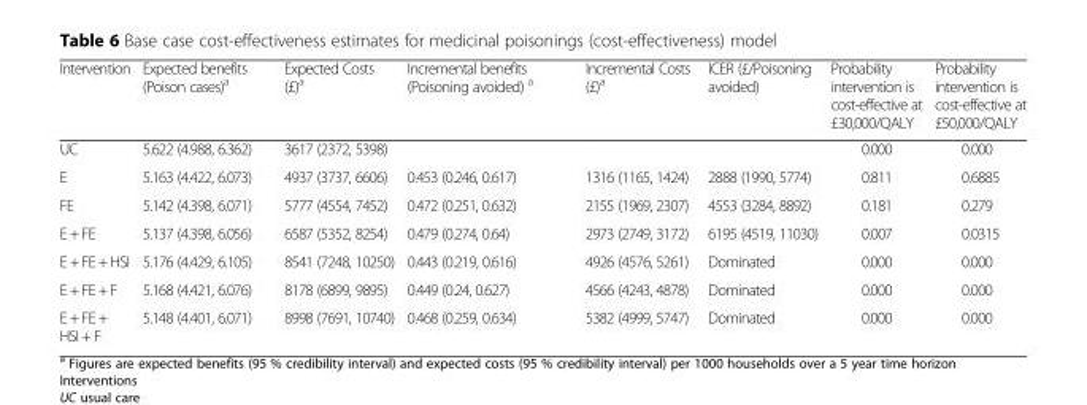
<table><thead><tr><td>Intervention</td><td>Expected benefits (Poison cases)<sup>a</sup></td><td>Expected Costs (£)<sup>a</sup></td><td>Incremental benefits (Poisoning avoided) <sup>a</sup></td><td>Incremental Costs (£)<sup>a</sup></td><td>ICER (£/Poisoning avoided)</td><td>Probability intervention is cost-effective at £30,000/QALY</td><td>Probability intervention is cost-effective at £50,000/QALY</td></tr></thead><tbody><tr><td>UC</td><td>5.622 (4.988, 6.362)</td><td>3617 (2372, 5398)</td><td></td><td></td><td></td><td>0.000</td><td>0.000</td></tr><tr><td>E</td><td>5.163 (4.422, 6.073)</td><td>4937 (3737, 6606)</td><td>0.453 (0.246, 0.617)</td><td>1316 (1165, 1424)</td><td>2888 (1990, 5774)</td><td>0.811</td><td>0.6885</td></tr><tr><td>FE</td><td>5.142 (4.398, 6.071)</td><td>5777 (4554, 7452)</td><td>0.472 (0.251, 0.632)</td><td>2155 (1969, 2307)</td><td>4553 (3284, 8892)</td><td>0.181</td><td>0.279</td></tr><tr><td>E + FE</td><td>5.137 (4.398, 6.056)</td><td>6587 (5352, 8254)</td><td>0.479 (0.274, 0.64)</td><td>2973 (2749, 3172)</td><td>6195 (4519, 11030)</td><td>0.007</td><td>0.0315</td></tr><tr><td>E + FE + HSI</td><td>5.176 (4.429, 6.105)</td><td>8541 (7248, 10250)</td><td>0.443 (0.219, 0.616)</td><td>4926 (4576, 5261)</td><td>Dominated</td><td>0.000</td><td>0.000</td></tr><tr><td>E + FE + F</td><td>5.168 (4.421, 6.076)</td><td>8178 (6899, 9895)</td><td>0.449 (0.24, 0.627)</td><td>4566 (4243, 4878)</td><td>Dominated</td><td>0.000</td><td>0.000</td></tr><tr><td>E + FE + HSI + F</td><td>5.148 (4.401, 6.071)</td><td>8998 (7691, 10740)</td><td>0.468 (0.259, 0.634)</td><td>5382 (4999, 5747)</td><td>Dominated</td><td>0.000</td><td>0.000</td></tr></tbody></table>